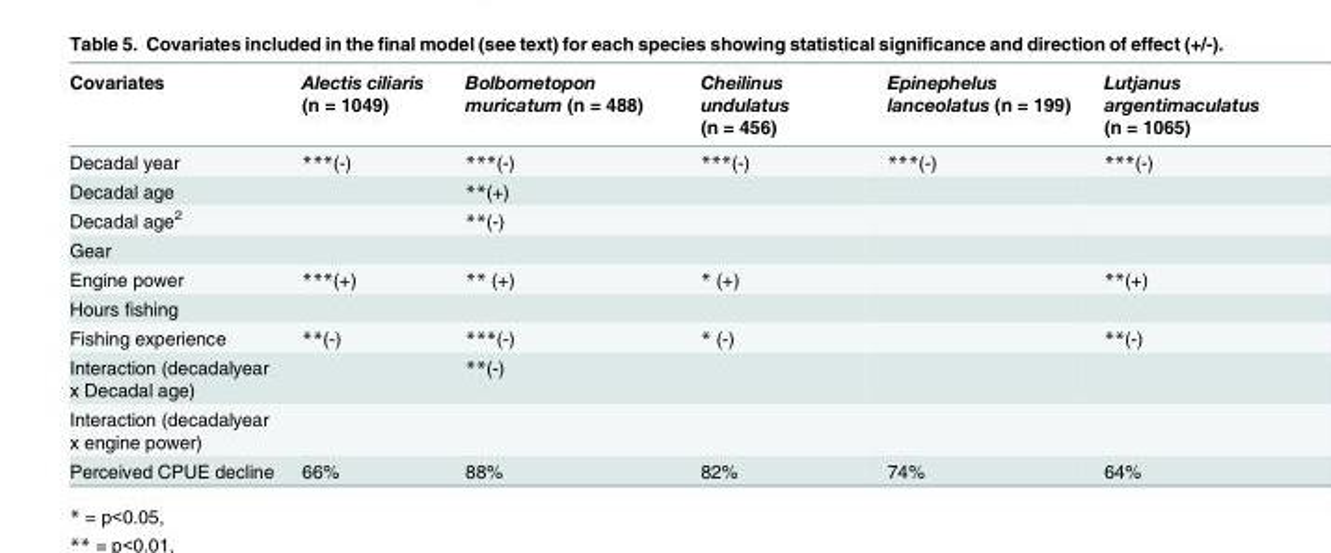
<table><thead><tr><td>Covariates</td><td>Alectis ciliaris (n = 1049)</td><td>Bolbometopon muricatum (n = 488)</td><td>Cheilinus undulatus (n = 456)</td><td>Epinephelus lanceolatus (n = 199)</td><td>Lutjanus argentimaculatus (n = 1065)</td></tr></thead><tbody><tr><td>Decadal year</td><td>***(-)</td><td>***(-)</td><td>***(-)</td><td>***(-)</td><td>***(-)</td></tr><tr><td>Decadal age</td><td></td><td>**(+)</td><td></td><td></td><td></td></tr><tr><td>Decadal age<sup>2</sup></td><td></td><td>**(-)</td><td></td><td></td><td></td></tr><tr><td colspan="6">Gear</td></tr><tr><td>Engine power</td><td>***(+)</td><td>** (+)</td><td>* (+)</td><td></td><td>**(+)</td></tr><tr><td colspan="6">Hours fishing</td></tr><tr><td>Fishing experience</td><td>**(-)</td><td>***(-)</td><td>* (-)</td><td></td><td>**(-)</td></tr><tr><td>Interaction (decadalyear x Decadal age)</td><td></td><td>**(-)</td><td></td><td></td><td></td></tr><tr><td colspan="6">Interaction (decadalyear x engine power)</td></tr><tr><td>Perceived CPUE decline</td><td>66%</td><td>88%</td><td>82%</td><td>74%</td><td>64%</td></tr></tbody></table>